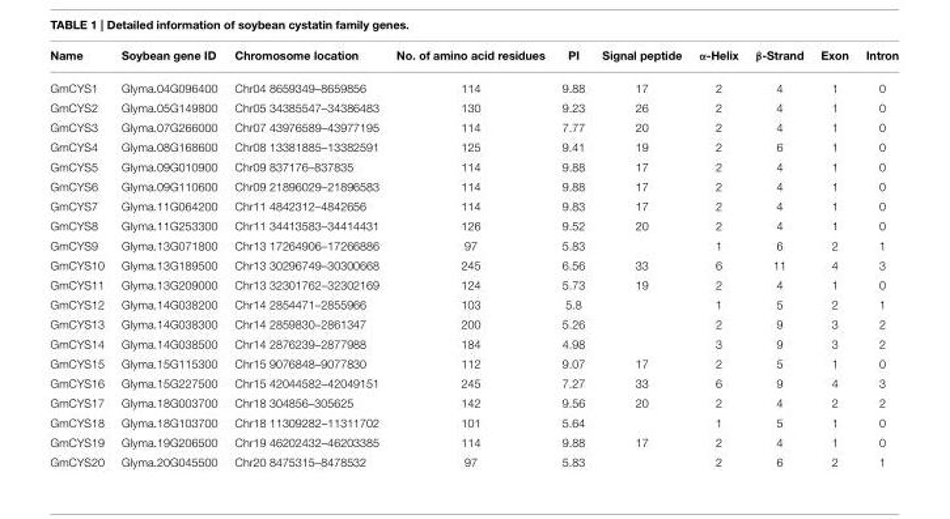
<table><thead><tr><td>Name</td><td>Soybean gene ID</td><td>Chromosome location</td><td>No. of amino acid residues</td><td>PI</td><td>Signal peptide</td><td>α-Helix</td><td>β-Strand</td><td>Exon</td><td>Intron</td></tr></thead><tbody><tr><td>GmCYS1</td><td>Glyma.04G096400</td><td>Chr04 8659349–8659856</td><td>114</td><td>9.88</td><td>17</td><td>2</td><td>4</td><td>1</td><td>0</td></tr><tr><td>GmCYS2</td><td>Glyma.05G149800</td><td>Chr05 34385547–34386483</td><td>130</td><td>9.23</td><td>26</td><td>2</td><td>4</td><td>1</td><td>0</td></tr><tr><td>GmCYS3</td><td>Glyma.07G266000</td><td>Chr07 43976589–43977195</td><td>114</td><td>7.77</td><td>20</td><td>2</td><td>4</td><td>1</td><td>0</td></tr><tr><td>GmCYS4</td><td>Glyma.08G168600</td><td>Chr08 13381885–13382591</td><td>125</td><td>9.41</td><td>19</td><td>2</td><td>6</td><td>1</td><td>0</td></tr><tr><td>GmCYS5</td><td>Glyma.09G010900</td><td>Chr09 837176–837835</td><td>114</td><td>9.88</td><td>17</td><td>2</td><td>4</td><td>1</td><td>0</td></tr><tr><td>GmCYS6</td><td>Glyma.09G110600</td><td>Chr09 21896029–21896583</td><td>114</td><td>9.88</td><td>17</td><td>2</td><td>4</td><td>1</td><td>0</td></tr><tr><td>GmCYS7</td><td>Glyma.11G064200</td><td>Chr11 4842312–4842656</td><td>114</td><td>9.83</td><td>17</td><td>2</td><td>4</td><td>1</td><td>0</td></tr><tr><td>GmCYS8</td><td>Glyma.11G253300</td><td>Chr11 34413583–34414431</td><td>126</td><td>9.52</td><td>20</td><td>2</td><td>4</td><td>1</td><td>0</td></tr><tr><td>GmCYS9</td><td>Glyma.13G071800</td><td>Chr13 17264906–17266886</td><td>97</td><td>5.83</td><td></td><td>1</td><td>6</td><td>2</td><td>1</td></tr><tr><td>GmCYS10</td><td>Glyma.13G189500</td><td>Chr13 30296749–30300668</td><td>245</td><td>6.56</td><td>33</td><td>6</td><td>11</td><td>4</td><td>3</td></tr><tr><td>GmCYS11</td><td>Glyma.13G209000</td><td>Chr13 32301762–32302169</td><td>124</td><td>5.73</td><td>19</td><td>2</td><td>4</td><td>1</td><td>0</td></tr><tr><td>GmCYS12</td><td>Glyma.14G038200</td><td>Chr14 2854471–2855966</td><td>103</td><td>5.8</td><td></td><td>1</td><td>5</td><td>2</td><td>1</td></tr><tr><td>GmCYS13</td><td>Glyma.14G038300</td><td>Chr14 2859830–2861347</td><td>200</td><td>5.26</td><td></td><td>2</td><td>9</td><td>3</td><td>2</td></tr><tr><td>GmCYS14</td><td>Glyma.14G038500</td><td>Chr14 2876239–2877988</td><td>184</td><td>4.98</td><td></td><td>3</td><td>9</td><td>3</td><td>2</td></tr><tr><td>GmCYS15</td><td>Glyma.15G115300</td><td>Chr15 9076848–9077830</td><td>112</td><td>9.07</td><td>17</td><td>2</td><td>5</td><td>1</td><td>0</td></tr><tr><td>GmCYS16</td><td>Glyma.15G227500</td><td>Chr15 42044582–42049151</td><td>245</td><td>7.27</td><td>33</td><td>6</td><td>9</td><td>4</td><td>3</td></tr><tr><td>GmCYS17</td><td>Glyma.18G003700</td><td>Chr18 304856–305625</td><td>142</td><td>9.56</td><td>20</td><td>2</td><td>4</td><td>2</td><td>2</td></tr><tr><td>GmCYS18</td><td>Glyma.18G103700</td><td>Chr18 11309282–11311702</td><td>101</td><td>5.64</td><td></td><td>1</td><td>5</td><td>1</td><td>0</td></tr><tr><td>GmCYS19</td><td>Glyma.19G206500</td><td>Chr19 46202432–46203385</td><td>114</td><td>9.88</td><td>17</td><td>2</td><td>4</td><td>1</td><td>0</td></tr><tr><td>GmCYS20</td><td>Glyma.20G045500</td><td>Chr20 8475315–8478532</td><td>97</td><td>5.83</td><td></td><td>2</td><td>6</td><td>2</td><td>1</td></tr></tbody></table>